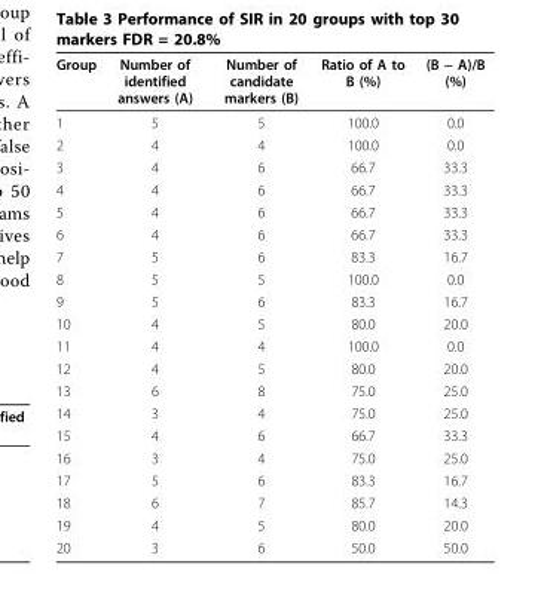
<table><thead><tr><td>Group</td><td>Number of identified answers (A)</td><td>Number of candidate markers (B)</td><td>Ratio of A to B (%)</td><td>(B − A)/B (%)</td></tr></thead><tbody><tr><td>1</td><td>5</td><td>5</td><td>100.0</td><td>0.0</td></tr><tr><td>2</td><td>4</td><td>4</td><td>100.0</td><td>0.0</td></tr><tr><td>3</td><td>4</td><td>6</td><td>66.7</td><td>33.3</td></tr><tr><td>4</td><td>4</td><td>6</td><td>66.7</td><td>33.3</td></tr><tr><td>5</td><td>4</td><td>6</td><td>66.7</td><td>33.3</td></tr><tr><td>6</td><td>4</td><td>6</td><td>66.7</td><td>33.3</td></tr><tr><td>7</td><td>5</td><td>6</td><td>83.3</td><td>16.7</td></tr><tr><td>8</td><td>5</td><td>5</td><td>100.0</td><td>0.0</td></tr><tr><td>9</td><td>5</td><td>6</td><td>83.3</td><td>16.7</td></tr><tr><td>10</td><td>4</td><td>5</td><td>80.0</td><td>20.0</td></tr><tr><td>11</td><td>4</td><td>4</td><td>100.0</td><td>0.0</td></tr><tr><td>12</td><td>4</td><td>5</td><td>80.0</td><td>20.0</td></tr><tr><td>13</td><td>6</td><td>8</td><td>75.0</td><td>25.0</td></tr><tr><td>14</td><td>3</td><td>4</td><td>75.0</td><td>25.0</td></tr><tr><td>15</td><td>4</td><td>6</td><td>66.7</td><td>33.3</td></tr><tr><td>16</td><td>3</td><td>4</td><td>75.0</td><td>25.0</td></tr><tr><td>17</td><td>5</td><td>6</td><td>83.3</td><td>16.7</td></tr><tr><td>18</td><td>6</td><td>7</td><td>85.7</td><td>14.3</td></tr><tr><td>19</td><td>4</td><td>5</td><td>80.0</td><td>20.0</td></tr><tr><td>20</td><td>3</td><td>6</td><td>50.0</td><td>50.0</td></tr></tbody></table>